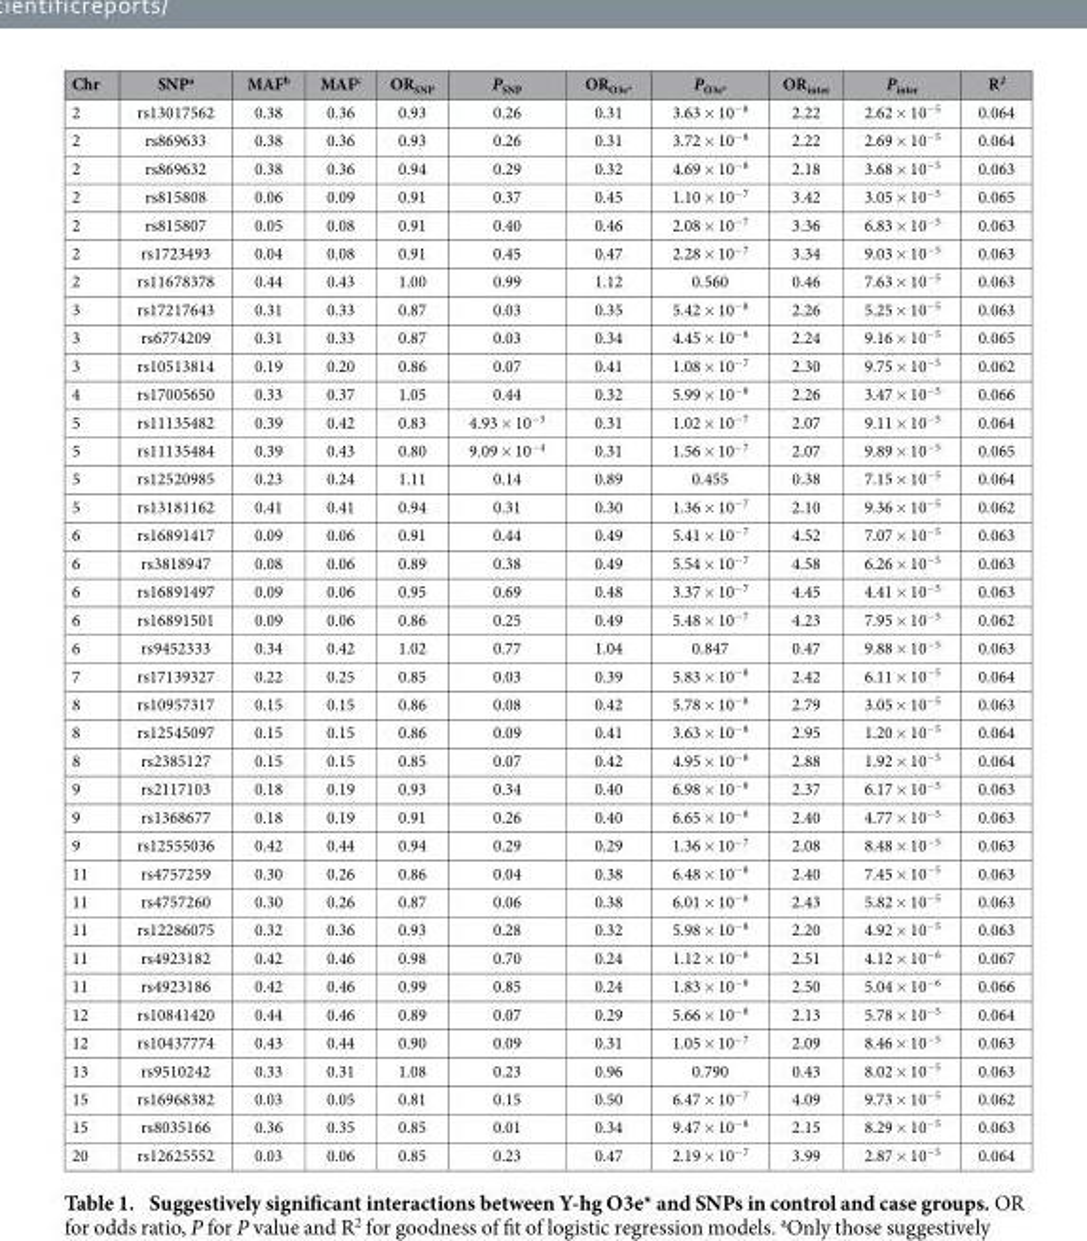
<table><thead><tr><td>Chr</td><td>SNP<sup>a</sup></td><td>MAF<sup>b</sup></td><td>MAF<sup>c</sup></td><td>OR<sub>SNP</sub></td><td>P<sub>SNP</sub></td><td>OR<sub>O3e*</sub></td><td>P<sub>O3e*</sub></td><td>OR<sub>inter</sub></td><td>P<sub>inter</sub></td><td>R<sup>2</sup></td></tr></thead><tbody><tr><td>2</td><td>rs13017562</td><td>0.38</td><td>0.36</td><td>0.93</td><td>0.26</td><td>0.31</td><td>3.63 × 10<sup>−8</sup></td><td>2.22</td><td>2.62 × 10<sup>−5</sup></td><td>0.064</td></tr><tr><td>2</td><td>rs869633</td><td>0.38</td><td>0.36</td><td>0.93</td><td>0.26</td><td>0.31</td><td>3.72 × 10<sup>−8</sup></td><td>2.22</td><td>2.69 × 10<sup>−5</sup></td><td>0.064</td></tr><tr><td>2</td><td>rs869632</td><td>0.38</td><td>0.36</td><td>0.94</td><td>0.29</td><td>0.32</td><td>4.69 × 10<sup>−8</sup></td><td>2.18</td><td>3.68 × 10<sup>−5</sup></td><td>0.063</td></tr><tr><td>2</td><td>rs815808</td><td>0.06</td><td>0.09</td><td>0.91</td><td>0.37</td><td>0.45</td><td>1.10 × 10<sup>−7</sup></td><td>3.42</td><td>3.05 × 10<sup>−5</sup></td><td>0.065</td></tr><tr><td>2</td><td>rs815807</td><td>0.05</td><td>0.08</td><td>0.91</td><td>0.40</td><td>0.46</td><td>2.08 × 10<sup>−7</sup></td><td>3.36</td><td>6.83 × 10<sup>−5</sup></td><td>0.063</td></tr><tr><td>2</td><td>rs1723493</td><td>0.04</td><td>0.08</td><td>0.91</td><td>0.45</td><td>0.47</td><td>2.28 × 10<sup>−7</sup></td><td>3.34</td><td>9.03 × 10<sup>−5</sup></td><td>0.063</td></tr><tr><td>2</td><td>rs11678378</td><td>0.44</td><td>0.43</td><td>1.00</td><td>0.99</td><td>1.12</td><td>0.560</td><td>0.46</td><td>7.63 × 10<sup>−5</sup></td><td>0.063</td></tr><tr><td>3</td><td>rs17217643</td><td>0.31</td><td>0.33</td><td>0.87</td><td>0.03</td><td>0.35</td><td>5.42 × 10<sup>−8</sup></td><td>2.26</td><td>5.25 × 10<sup>−5</sup></td><td>0.063</td></tr><tr><td>3</td><td>rs6774209</td><td>0.31</td><td>0.33</td><td>0.87</td><td>0.03</td><td>0.34</td><td>4.45 × 10<sup>−8</sup></td><td>2.24</td><td>9.16 × 10<sup>−5</sup></td><td>0.065</td></tr><tr><td>3</td><td>rs10513814</td><td>0.19</td><td>0.20</td><td>0.86</td><td>0.07</td><td>0.41</td><td>1.08 × 10<sup>−7</sup></td><td>2.30</td><td>9.75 × 10<sup>−5</sup></td><td>0.062</td></tr><tr><td>4</td><td>rs17005650</td><td>0.33</td><td>0.37</td><td>1.05</td><td>0.44</td><td>0.32</td><td>5.99 × 10<sup>−8</sup></td><td>2.26</td><td>3.47 × 10<sup>−5</sup></td><td>0.066</td></tr><tr><td>5</td><td>rs11135482</td><td>0.39</td><td>0.42</td><td>0.83</td><td>4.93 × 10<sup>−3</sup></td><td>0.31</td><td>1.02 × 10<sup>−7</sup></td><td>2.07</td><td>9.11 × 10<sup>−5</sup></td><td>0.064</td></tr><tr><td>5</td><td>rs11135484</td><td>0.39</td><td>0.43</td><td>0.80</td><td>9.09 × 10<sup>−4</sup></td><td>0.31</td><td>1.56 × 10<sup>−7</sup></td><td>2.07</td><td>9.89 × 10<sup>−5</sup></td><td>0.065</td></tr><tr><td>5</td><td>rs12520985</td><td>0.23</td><td>0.24</td><td>1.11</td><td>0.14</td><td>0.89</td><td>0.455</td><td>0.38</td><td>7.15 × 10<sup>−5</sup></td><td>0.064</td></tr><tr><td>5</td><td>rs13181162</td><td>0.41</td><td>0.41</td><td>0.94</td><td>0.31</td><td>0.30</td><td>1.36 × 10<sup>−7</sup></td><td>2.10</td><td>9.36 × 10<sup>−5</sup></td><td>0.062</td></tr><tr><td>6</td><td>rs16891417</td><td>0.09</td><td>0.06</td><td>0.91</td><td>0.44</td><td>0.49</td><td>5.41 × 10<sup>−7</sup></td><td>4.52</td><td>7.07 × 10<sup>−5</sup></td><td>0.063</td></tr><tr><td>6</td><td>rs3818947</td><td>0.08</td><td>0.06</td><td>0.89</td><td>0.38</td><td>0.49</td><td>5.54 × 10<sup>−7</sup></td><td>4.58</td><td>6.26 × 10<sup>−5</sup></td><td>0.063</td></tr><tr><td>6</td><td>rs16891497</td><td>0.09</td><td>0.06</td><td>0.95</td><td>0.69</td><td>0.48</td><td>3.37 × 10<sup>−7</sup></td><td>4.45</td><td>4.41 × 10<sup>−5</sup></td><td>0.063</td></tr><tr><td>6</td><td>rs16891501</td><td>0.09</td><td>0.06</td><td>0.86</td><td>0.25</td><td>0.49</td><td>5.48 × 10<sup>−7</sup></td><td>4.23</td><td>7.95 × 10<sup>−5</sup></td><td>0.062</td></tr><tr><td>6</td><td>rs9452333</td><td>0.34</td><td>0.42</td><td>1.02</td><td>0.77</td><td>1.04</td><td>0.847</td><td>0.47</td><td>9.88 × 10<sup>−5</sup></td><td>0.063</td></tr><tr><td>7</td><td>rs17139327</td><td>0.22</td><td>0.25</td><td>0.85</td><td>0.03</td><td>0.39</td><td>5.83 × 10<sup>−8</sup></td><td>2.42</td><td>6.11 × 10<sup>−5</sup></td><td>0.064</td></tr><tr><td>8</td><td>rs10957317</td><td>0.15</td><td>0.15</td><td>0.86</td><td>0.08</td><td>0.42</td><td>5.78 × 10<sup>−8</sup></td><td>2.79</td><td>3.05 × 10<sup>−5</sup></td><td>0.063</td></tr><tr><td>8</td><td>rs12545097</td><td>0.15</td><td>0.15</td><td>0.86</td><td>0.09</td><td>0.41</td><td>3.63 × 10<sup>−8</sup></td><td>2.95</td><td>1.20 × 10<sup>−5</sup></td><td>0.064</td></tr><tr><td>8</td><td>rs2385127</td><td>0.15</td><td>0.15</td><td>0.85</td><td>0.07</td><td>0.42</td><td>4.95 × 10<sup>−8</sup></td><td>2.88</td><td>1.92 × 10<sup>−5</sup></td><td>0.064</td></tr><tr><td>9</td><td>rs2117103</td><td>0.18</td><td>0.19</td><td>0.93</td><td>0.34</td><td>0.40</td><td>6.98 × 10<sup>−8</sup></td><td>2.37</td><td>6.17 × 10<sup>−5</sup></td><td>0.063</td></tr><tr><td>9</td><td>rs1368677</td><td>0.18</td><td>0.19</td><td>0.91</td><td>0.26</td><td>0.40</td><td>6.65 × 10<sup>−8</sup></td><td>2.40</td><td>4.77 × 10<sup>−5</sup></td><td>0.063</td></tr><tr><td>9</td><td>rs12555036</td><td>0.42</td><td>0.44</td><td>0.94</td><td>0.29</td><td>0.29</td><td>1.36 × 10<sup>−7</sup></td><td>2.08</td><td>8.48 × 10<sup>−5</sup></td><td>0.063</td></tr><tr><td>11</td><td>rs4757259</td><td>0.30</td><td>0.26</td><td>0.86</td><td>0.04</td><td>0.38</td><td>6.48 × 10<sup>−8</sup></td><td>2.40</td><td>7.45 × 10<sup>−5</sup></td><td>0.063</td></tr><tr><td>11</td><td>rs4757260</td><td>0.30</td><td>0.26</td><td>0.87</td><td>0.06</td><td>0.38</td><td>6.01 × 10<sup>−8</sup></td><td>2.43</td><td>5.82 × 10<sup>−5</sup></td><td>0.063</td></tr><tr><td>11</td><td>rs12286075</td><td>0.32</td><td>0.36</td><td>0.93</td><td>0.28</td><td>0.32</td><td>5.98 × 10<sup>−8</sup></td><td>2.20</td><td>4.92 × 10<sup>−5</sup></td><td>0.063</td></tr><tr><td>11</td><td>rs4923182</td><td>0.42</td><td>0.46</td><td>0.98</td><td>0.70</td><td>0.24</td><td>1.12 × 10<sup>−8</sup></td><td>2.51</td><td>4.12 × 10<sup>−6</sup></td><td>0.067</td></tr><tr><td>11</td><td>rs4923186</td><td>0.42</td><td>0.46</td><td>0.99</td><td>0.85</td><td>0.24</td><td>1.83 × 10<sup>−8</sup></td><td>2.50</td><td>5.04 × 10<sup>−6</sup></td><td>0.066</td></tr><tr><td>12</td><td>rs10841420</td><td>0.44</td><td>0.46</td><td>0.89</td><td>0.07</td><td>0.29</td><td>5.66 × 10<sup>−8</sup></td><td>2.13</td><td>5.78 × 10<sup>−5</sup></td><td>0.064</td></tr><tr><td>12</td><td>rs10437774</td><td>0.43</td><td>0.44</td><td>0.90</td><td>0.09</td><td>0.31</td><td>1.05 × 10<sup>−7</sup></td><td>2.09</td><td>8.46 × 10<sup>−5</sup></td><td>0.063</td></tr><tr><td>13</td><td>rs9510242</td><td>0.33</td><td>0.31</td><td>1.08</td><td>0.23</td><td>0.96</td><td>0.790</td><td>0.43</td><td>8.02 × 10<sup>−5</sup></td><td>0.063</td></tr><tr><td>15</td><td>rs16968382</td><td>0.03</td><td>0.05</td><td>0.81</td><td>0.15</td><td>0.50</td><td>6.47 × 10<sup>−7</sup></td><td>4.09</td><td>9.73 × 10<sup>−5</sup></td><td>0.062</td></tr><tr><td>15</td><td>rs8035166</td><td>0.36</td><td>0.35</td><td>0.85</td><td>0.01</td><td>0.34</td><td>9.47 × 10<sup>−8</sup></td><td>2.15</td><td>8.29 × 10<sup>−5</sup></td><td>0.063</td></tr><tr><td>20</td><td>rs12625552</td><td>0.03</td><td>0.06</td><td>0.85</td><td>0.23</td><td>0.47</td><td>2.19 × 10<sup>−7</sup></td><td>3.99</td><td>2.87 × 10<sup>−5</sup></td><td>0.064</td></tr></tbody></table>